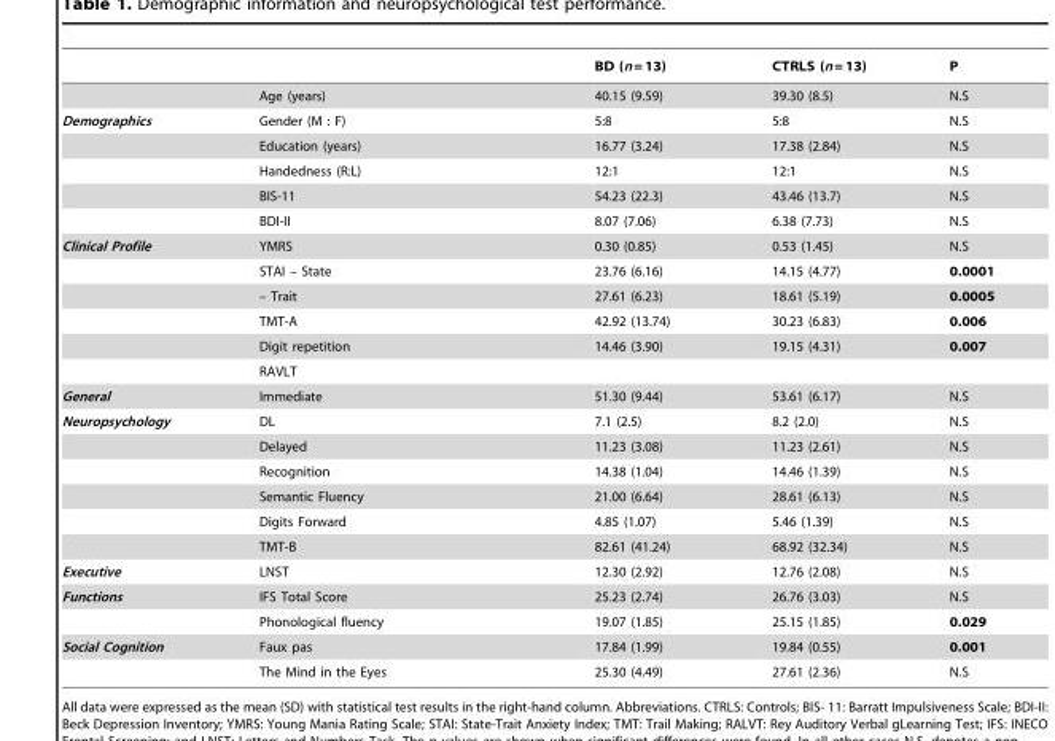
<table><thead><tr><td></td><td></td><td>BD (n = 13)</td><td>CTRLS (n = 13)</td><td>P</td></tr></thead><tbody><tr><td></td><td>Age (years)</td><td>40.15 (9.59)</td><td>39.30 (8.5)</td><td>N.S</td></tr><tr><td rowspan="5">Demographics</td><td>Gender (M : F)</td><td>5:8</td><td>5:8</td><td>N.S</td></tr><tr><td>Education (years)</td><td>16.77 (3.24)</td><td>17.38 (2.84)</td><td>N.S</td></tr><tr><td>Handedness (R:L)</td><td>12:1</td><td>12:1</td><td>N.S</td></tr><tr><td>BIS-11</td><td>54.23 (22.3)</td><td>43.46 (13.7)</td><td>N.S</td></tr><tr><td>BDI-II</td><td>8.07 (7.06)</td><td>6.38 (7.73)</td><td>N.S</td></tr><tr><td rowspan="6">Clinical Profile</td><td>YMRS</td><td>0.30 (0.85)</td><td>0.53 (1.45)</td><td>N.S</td></tr><tr><td>STAI – State</td><td>23.76 (6.16)</td><td>14.15 (4.77)</td><td>0.0001</td></tr><tr><td>– Trait</td><td>27.61 (6.23)</td><td>18.61 (5.19)</td><td>0.0005</td></tr><tr><td>TMT-A</td><td>42.92 (13.74)</td><td>30.23 (6.83)</td><td>0.006</td></tr><tr><td>Digit repetition</td><td>14.46 (3.90)</td><td>19.15 (4.31)</td><td>0.007</td></tr><tr><td>RAVLT</td><td></td><td></td><td></td></tr><tr><td>General</td><td>Immediate</td><td>51.30 (9.44)</td><td>53.61 (6.17)</td><td>N.S</td></tr><tr><td rowspan="6">Neuropsychology</td><td>DL</td><td>7.1 (2.5)</td><td>8.2 (2.0)</td><td>N.S</td></tr><tr><td>Delayed</td><td>11.23 (3.08)</td><td>11.23 (2.61)</td><td>N.S</td></tr><tr><td>Recognition</td><td>14.38 (1.04)</td><td>14.46 (1.39)</td><td>N.S</td></tr><tr><td>Semantic Fluency</td><td>21.00 (6.64)</td><td>28.61 (6.13)</td><td>N.S</td></tr><tr><td>Digits Forward</td><td>4.85 (1.07)</td><td>5.46 (1.39)</td><td>N.S</td></tr><tr><td>TMT-B</td><td>82.61 (41.24)</td><td>68.92 (32.34)</td><td>N.S</td></tr><tr><td>Executive</td><td>LNST</td><td>12.30 (2.92)</td><td>12.76 (2.08)</td><td>N.S</td></tr><tr><td rowspan="2">Functions</td><td>IFS Total Score</td><td>25.23 (2.74)</td><td>26.76 (3.03)</td><td>N.S</td></tr><tr><td>Phonological fluency</td><td>19.07 (1.85)</td><td>25.15 (1.85)</td><td>0.029</td></tr><tr><td rowspan="2">Social Cognition</td><td>Faux pas</td><td>17.84 (1.99)</td><td>19.84 (0.55)</td><td>0.001</td></tr><tr><td>The Mind in the Eyes</td><td>25.30 (4.49)</td><td>27.61 (2.36)</td><td>N.S</td></tr></tbody></table>